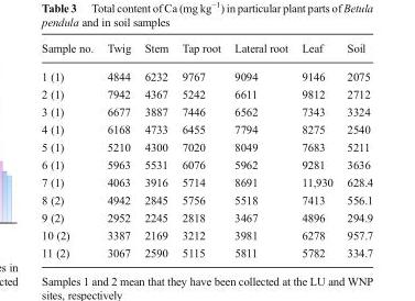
<table><thead><tr><td>Sample no.</td><td>Twig</td><td>Stem</td><td>Tap root</td><td>Lateral root</td><td>Leaf</td><td>Soil</td></tr></thead><tbody><tr><td>1 (1)</td><td>4844</td><td>6232</td><td>9767</td><td>9094</td><td>9146</td><td>2075</td></tr><tr><td>2 (1)</td><td>7942</td><td>4367</td><td>5242</td><td>6611</td><td>9812</td><td>2712</td></tr><tr><td>3 (1)</td><td>6677</td><td>3887</td><td>7446</td><td>6562</td><td>7343</td><td>3324</td></tr><tr><td>4 (1)</td><td>6168</td><td>4733</td><td>6455</td><td>7794</td><td>8275</td><td>2540</td></tr><tr><td>5 (1)</td><td>5210</td><td>4300</td><td>7020</td><td>8049</td><td>7683</td><td>5211</td></tr><tr><td>6 (1)</td><td>5963</td><td>5531</td><td>6076</td><td>5962</td><td>9281</td><td>3636</td></tr><tr><td>7 (1)</td><td>4063</td><td>3916</td><td>5714</td><td>8691</td><td>11,930</td><td>628.4</td></tr><tr><td>8 (2)</td><td>4942</td><td>2845</td><td>5756</td><td>5518</td><td>7413</td><td>556.1</td></tr><tr><td>9 (2)</td><td>2952</td><td>2245</td><td>2818</td><td>3467</td><td>4896</td><td>294.9</td></tr><tr><td>10 (2)</td><td>3387</td><td>2169</td><td>3212</td><td>3981</td><td>6278</td><td>957.7</td></tr><tr><td>11 (2)</td><td>3067</td><td>2590</td><td>5115</td><td>5811</td><td>5782</td><td>334.7</td></tr></tbody></table>